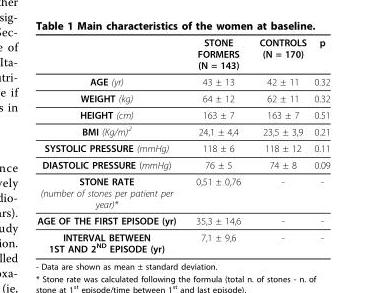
<table><thead><tr><td></td><td>STONE FORMERS (N = 143)</td><td>CONTROLS (N = 170)</td><td>p</td></tr></thead><tbody><tr><td>AGE (yr)</td><td>43 ± 13</td><td>42 ± 11</td><td>0.32</td></tr><tr><td>WEIGHT (kg)</td><td>64 ± 12</td><td>62 ± 11</td><td>0.32</td></tr><tr><td>HEIGHT (cm)</td><td>163 ± 7</td><td>163 ± 7</td><td>0.51</td></tr><tr><td>BMI (Kg/m)<sup>2</sup></td><td>24,1 ± 4,4</td><td>23,5 ± 3,9</td><td>0.21</td></tr><tr><td>SYSTOLIC PRESSURE (mmHg)</td><td>118 ± 6</td><td>118 ± 12</td><td>0.11</td></tr><tr><td>DIASTOLIC PRESSURE (mmHg)</td><td>76 ± 5</td><td>74 ± 8</td><td>0.09</td></tr><tr><td>STONE RATE (number of stones per patient per year)*</td><td>0,51 ± 0,76</td><td>-</td><td>-</td></tr><tr><td>AGE OF THE FIRST EPISODE (yr)</td><td>35,3 ± 14,6</td><td>-</td><td>-</td></tr><tr><td>INTERVAL BETWEEN 1ST AND 2<sup>ND</sup> EPISODE (yr)</td><td>7,1 ± 9,6</td><td>-</td><td>-</td></tr></tbody></table>